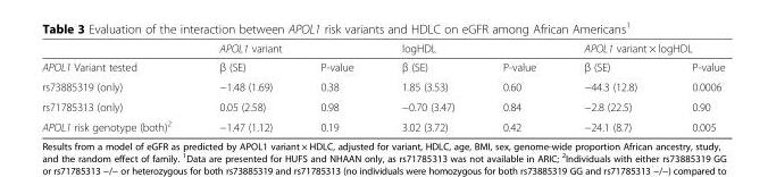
<table><thead><tr><td rowspan="2">APOL1 Variant tested</td><td colspan="2">APOL1 variant</td><td colspan="2">logHDL</td><td colspan="2">APOL1 variant × logHDL</td></tr><tr><td>β (SE)</td><td>P-value</td><td>β (SE)</td><td>P-value</td><td>β (SE)</td><td>P-value</td></tr></thead><tbody><tr><td>rs73885319 (only)</td><td>−1.48 (1.69)</td><td>0.38</td><td>1.85 (3.53)</td><td>0.60</td><td>−44.3 (12.8)</td><td>0.0006</td></tr><tr><td>rs71785313 (only)</td><td>0.05 (2.58)</td><td>0.98</td><td>−0.70 (3.47)</td><td>0.84</td><td>−2.8 (22.5)</td><td>0.90</td></tr><tr><td>APOL1 risk genotype (both)<sup>2</sup></td><td>−1.47 (1.12)</td><td>0.19</td><td>3.02 (3.72)</td><td>0.42</td><td>−24.1 (8.7)</td><td>0.005</td></tr></tbody></table>